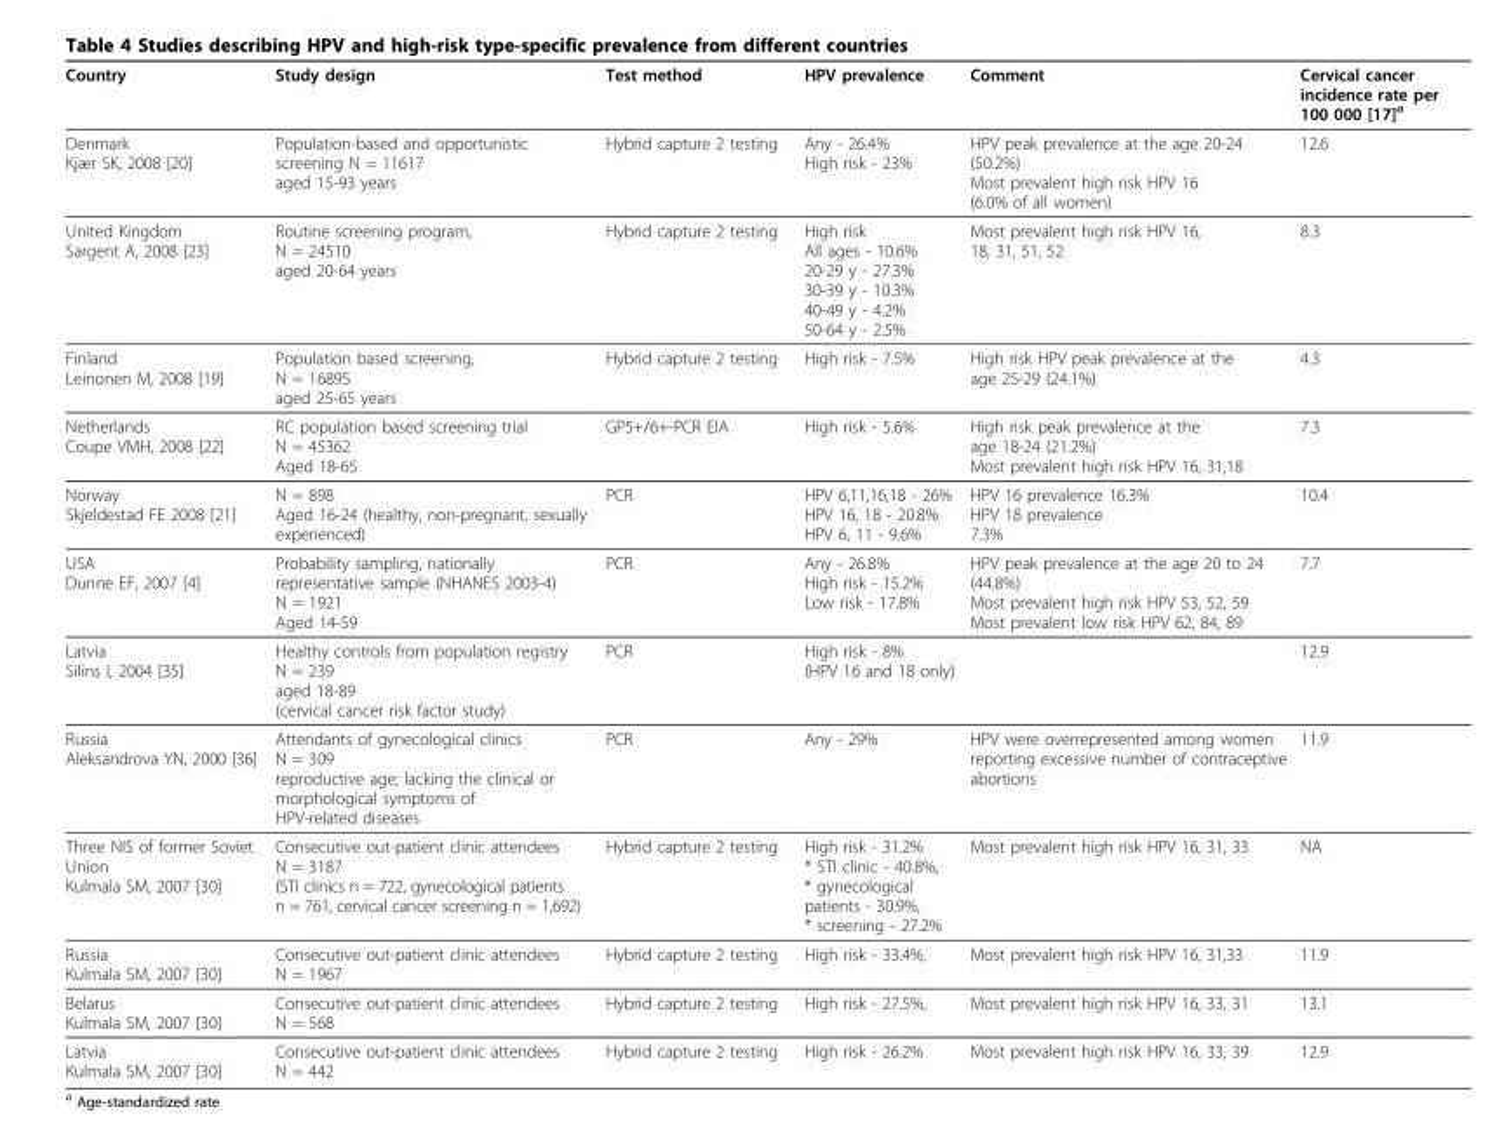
<table><thead><tr><td>Country</td><td>Study design</td><td>Test method</td><td>HPV prevalence</td><td>Comment</td><td>Cervical cancer incidence rate per 100 000 [17]<sup>a</sup></td></tr></thead><tbody><tr><td>Denmark Kjær SK, 2008 [20]</td><td>Population-based and opportunistic screening N = 11617 aged 15-93 years</td><td>Hybrid capture 2 testing</td><td>Any - 26.4% High risk - 23%</td><td>HPV peak prevalence at the age 20-24 (50.2%) Most prevalent high risk HPV 16 (6.0% of all women)</td><td>12.6</td></tr><tr><td>United Kingdom Sargent A, 2008 [23]</td><td>Routine screening program, N = 24510 aged 20-64 years</td><td>Hybrid capture 2 testing</td><td>High risk All ages - 10.6% 20-29 y - 27.3% 30-39 y - 10.3% 40-49 y - 4.2% 50-64 y - 2.5%</td><td>Most prevalent high risk HPV 16, 18, 31, 51, 52</td><td>8.3</td></tr><tr><td>Finland Leinonen M, 2008 [19]</td><td>Population based screening, N = 16895 aged 25-65 years</td><td>Hybrid capture 2 testing</td><td>High risk - 7.5%</td><td>High risk HPV peak prevalence at the age 25-29 (24.1%)</td><td>4.3</td></tr><tr><td>Netherlands Coupe VMH, 2008 [22]</td><td>RC population based screening trial N = 45362 Aged 18-65</td><td>GP5+/6+-PCR EIA</td><td>High risk - 5.6%</td><td>High risk peak prevalence at the age 18-24 (21.2%) Most prevalent high risk HPV 16, 31,18</td><td>7.3</td></tr><tr><td>Norway Skjeldestad FE 2008 [21]</td><td>N = 898 Aged 16-24 (healthy, non-pregnant, sexually experienced)</td><td>PCR</td><td>HPV 6,11,16,18 - 26% HPV 16, 18 - 20.8% HPV 6, 11 - 9.6%</td><td>HPV 16 prevalence 16.3% HPV 18 prevalence 7.3%</td><td>10.4</td></tr><tr><td>USA Dunne EF, 2007 [4]</td><td>Probability sampling, nationally representative sample (NHANES 2003-4) N = 1921 Aged 14-59</td><td>PCR</td><td>Any - 26.8% High risk - 15.2% Low risk - 17.8%</td><td>HPV peak prevalence at the age 20 to 24 (44.8%) Most prevalent high risk HPV 53, 52, 59 Most prevalent low risk HPV 62, 84, 89</td><td>7.7</td></tr><tr><td>Latvia Silins I, 2004 [35]</td><td>Healthy controls from population registry N = 239 aged 18-89 (cervical cancer risk factor study)</td><td>PCR</td><td>High risk - 8% (HPV 16 and 18 only)</td><td></td><td>12.9</td></tr><tr><td>Russia Aleksandrova YN, 2000 [36]</td><td>Attendants of gynecological clinics N = 309 reproductive age; lacking the clinical or morphological symptoms of HPV-related diseases</td><td>PCR</td><td>Any - 29%</td><td>HPV were overrepresented among women reporting excessive number of contraceptive abortions</td><td>11.9</td></tr><tr><td>Three NIS of former Soviet Union Kulmala SM, 2007 [30]</td><td>Consecutive out-patient clinic attendees N = 3187 (STI clinics n = 722, gynecological patients n = 761, cervical cancer screening n = 1,692)</td><td>Hybrid capture 2 testing</td><td>High risk - 31.2% * STI clinic - 40.8%, * gynecological patients - 30.9%, * screening - 27.2%</td><td>Most prevalent high risk HPV 16, 31, 33</td><td>NA</td></tr><tr><td>Russia Kulmala SM, 2007 [30]</td><td>Consecutive out-patient clinic attendees N = 1967</td><td>Hybrid capture 2 testing</td><td>High risk - 33.4%,</td><td>Most prevalent high risk HPV 16, 31,33</td><td>11.9</td></tr><tr><td>Belarus Kulmala SM, 2007 [30]</td><td>Consecutive out-patient clinic attendees N = 568</td><td>Hybrid capture 2 testing</td><td>High risk - 27.5%,</td><td>Most prevalent high risk HPV 16, 33, 31</td><td>13.1</td></tr><tr><td>Latvia Kulmala SM, 2007 [30]</td><td>Consecutive out-patient clinic attendees N = 442</td><td>Hybrid capture 2 testing</td><td>High risk - 26.2%</td><td>Most prevalent high risk HPV 16, 33, 39</td><td>12.9</td></tr></tbody></table>